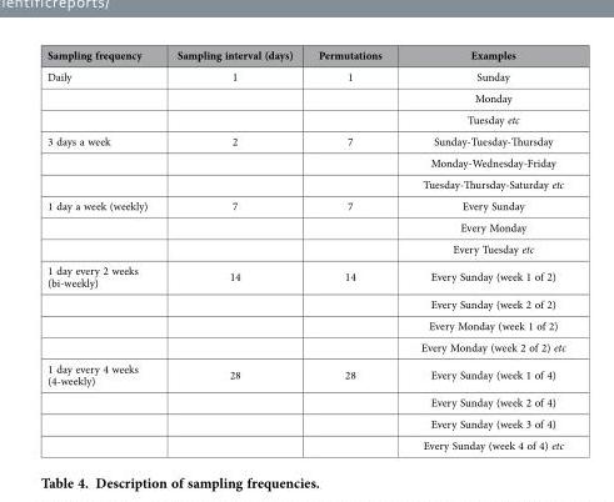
<table><thead><tr><td>Sampling frequency</td><td>Sampling interval (days)</td><td>Permutations</td><td>Examples</td></tr></thead><tbody><tr><td rowspan="3">Daily</td><td>1</td><td>1</td><td>Sunday</td></tr><tr><td></td><td></td><td>Monday</td></tr><tr><td></td><td></td><td>Tuesday etc</td></tr><tr><td rowspan="3">3 days a week</td><td>2</td><td>7</td><td>Sunday-Tuesday-Thursday</td></tr><tr><td></td><td></td><td>Monday-Wednesday-Friday</td></tr><tr><td></td><td></td><td>Tuesday-Thursday-Saturday etc</td></tr><tr><td rowspan="3">1 day a week (weekly)</td><td>7</td><td>7</td><td>Every Sunday</td></tr><tr><td></td><td></td><td>Every Monday</td></tr><tr><td></td><td></td><td>Every Tuesday etc</td></tr><tr><td rowspan="4">1 day every 2 weeks (bi-weekly)</td><td>14</td><td>14</td><td>Every Sunday (week 1 of 2)</td></tr><tr><td></td><td></td><td>Every Sunday (week 2 of 2)</td></tr><tr><td></td><td></td><td>Every Monday (week 1 of 2)</td></tr><tr><td></td><td></td><td>Every Monday (week 2 of 2) etc</td></tr><tr><td rowspan="4">1 day every 4 weeks (4-weekly)</td><td>28</td><td>28</td><td>Every Sunday (week 1 of 4)</td></tr><tr><td></td><td></td><td>Every Sunday (week 2 of 4)</td></tr><tr><td></td><td></td><td>Every Sunday (week 3 of 4)</td></tr><tr><td></td><td></td><td>Every Sunday (week 4 of 4) etc</td></tr></tbody></table>